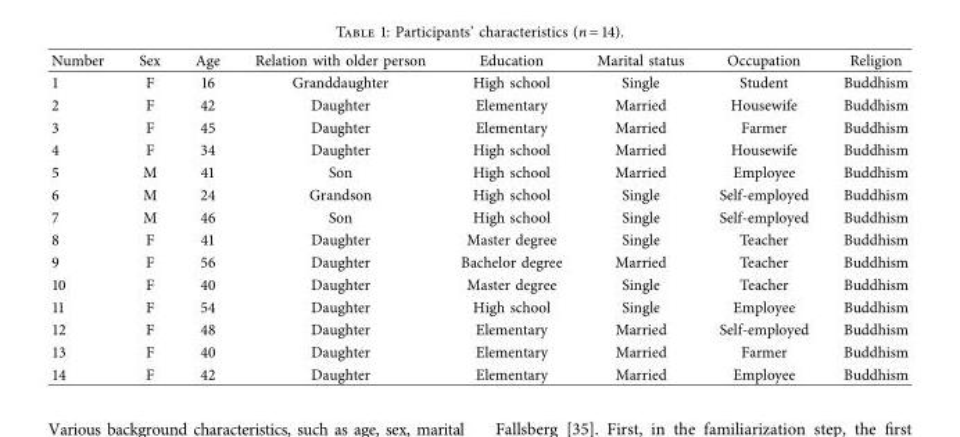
<table><thead><tr><td>Number</td><td>Sex</td><td>Age</td><td>Relation with older person</td><td>Education</td><td>Marital status</td><td>Occupation</td><td>Religion</td></tr></thead><tbody><tr><td>1</td><td>F</td><td>16</td><td>Granddaughter</td><td>High school</td><td>Single</td><td>Student</td><td>Buddhism</td></tr><tr><td>2</td><td>F</td><td>42</td><td>Daughter</td><td>Elementary</td><td>Married</td><td>Housewife</td><td>Buddhism</td></tr><tr><td>3</td><td>F</td><td>45</td><td>Daughter</td><td>Elementary</td><td>Married</td><td>Farmer</td><td>Buddhism</td></tr><tr><td>4</td><td>F</td><td>34</td><td>Daughter</td><td>High school</td><td>Married</td><td>Housewife</td><td>Buddhism</td></tr><tr><td>5</td><td>M</td><td>41</td><td>Son</td><td>High school</td><td>Married</td><td>Employee</td><td>Buddhism</td></tr><tr><td>6</td><td>M</td><td>24</td><td>Grandson</td><td>High school</td><td>Single</td><td>Self-employed</td><td>Buddhism</td></tr><tr><td>7</td><td>M</td><td>46</td><td>Son</td><td>High school</td><td>Single</td><td>Self-employed</td><td>Buddhism</td></tr><tr><td>8</td><td>F</td><td>41</td><td>Daughter</td><td>Master degree</td><td>Single</td><td>Teacher</td><td>Buddhism</td></tr><tr><td>9</td><td>F</td><td>56</td><td>Daughter</td><td>Bachelor degree</td><td>Married</td><td>Teacher</td><td>Buddhism</td></tr><tr><td>10</td><td>F</td><td>40</td><td>Daughter</td><td>Master degree</td><td>Single</td><td>Teacher</td><td>Buddhism</td></tr><tr><td>11</td><td>F</td><td>54</td><td>Daughter</td><td>High school</td><td>Single</td><td>Employee</td><td>Buddhism</td></tr><tr><td>12</td><td>F</td><td>48</td><td>Daughter</td><td>Elementary</td><td>Married</td><td>Self-employed</td><td>Buddhism</td></tr><tr><td>13</td><td>F</td><td>40</td><td>Daughter</td><td>Elementary</td><td>Married</td><td>Farmer</td><td>Buddhism</td></tr><tr><td>14</td><td>F</td><td>42</td><td>Daughter</td><td>Elementary</td><td>Married</td><td>Employee</td><td>Buddhism</td></tr></tbody></table>